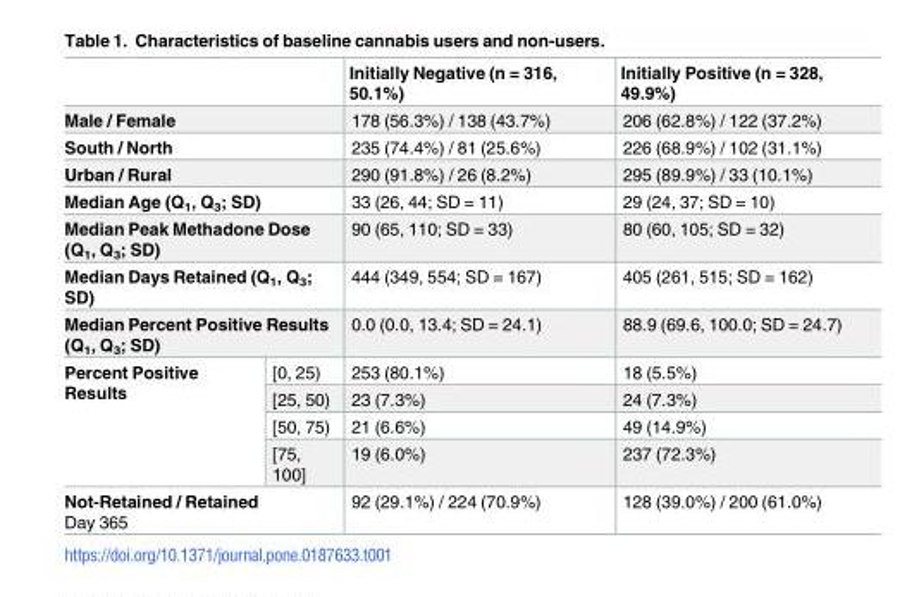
<table><thead><tr><td></td><td></td><td>Initially Negative (n = 316, 50.1%)</td><td>Initially Positive (n = 328, 49.9%)</td></tr></thead><tbody><tr><td colspan="2">Male / Female</td><td>178 (56.3%) / 138 (43.7%)</td><td>206 (62.8%) / 122 (37.2%)</td></tr><tr><td colspan="2">South / North</td><td>235 (74.4%) / 81 (25.6%)</td><td>226 (68.9%) / 102 (31.1%)</td></tr><tr><td colspan="2">Urban / Rural</td><td>290 (91.8%) / 26 (8.2%)</td><td>295 (89.9%) / 33 (10.1%)</td></tr><tr><td colspan="2">Median Age (Q<sub>1</sub>, Q<sub>3</sub>; SD)</td><td>33 (26, 44; SD = 11)</td><td>29 (24, 37; SD = 10)</td></tr><tr><td colspan="2">Median Peak Methadone Dose (Q<sub>1</sub>, Q<sub>3</sub>; SD)</td><td>90 (65, 110; SD = 33)</td><td>80 (60, 105; SD = 32)</td></tr><tr><td colspan="2">Median Days Retained (Q<sub>1</sub>, Q<sub>3</sub>; SD)</td><td>444 (349, 554; SD = 167)</td><td>405 (261, 515; SD = 162)</td></tr><tr><td colspan="2">Median Percent Positive Results (Q<sub>1</sub>, Q<sub>3</sub>; SD)</td><td>0.0 (0.0, 13.4; SD = 24.1)</td><td>88.9 (69.6, 100.0; SD = 24.7)</td></tr><tr><td rowspan="4">Percent Positive Results</td><td>[0, 25)</td><td>253 (80.1%)</td><td>18 (5.5%)</td></tr><tr><td>[25, 50)</td><td>23 (7.3%)</td><td>24 (7.3%)</td></tr><tr><td>[50, 75)</td><td>21 (6.6%)</td><td>49 (14.9%)</td></tr><tr><td>[75, 100]</td><td>19 (6.0%)</td><td>237 (72.3%)</td></tr><tr><td colspan="2">Not-Retained / Retained Day 365</td><td>92 (29.1%) / 224 (70.9%)</td><td>128 (39.0%) / 200 (61.0%)</td></tr></tbody></table>